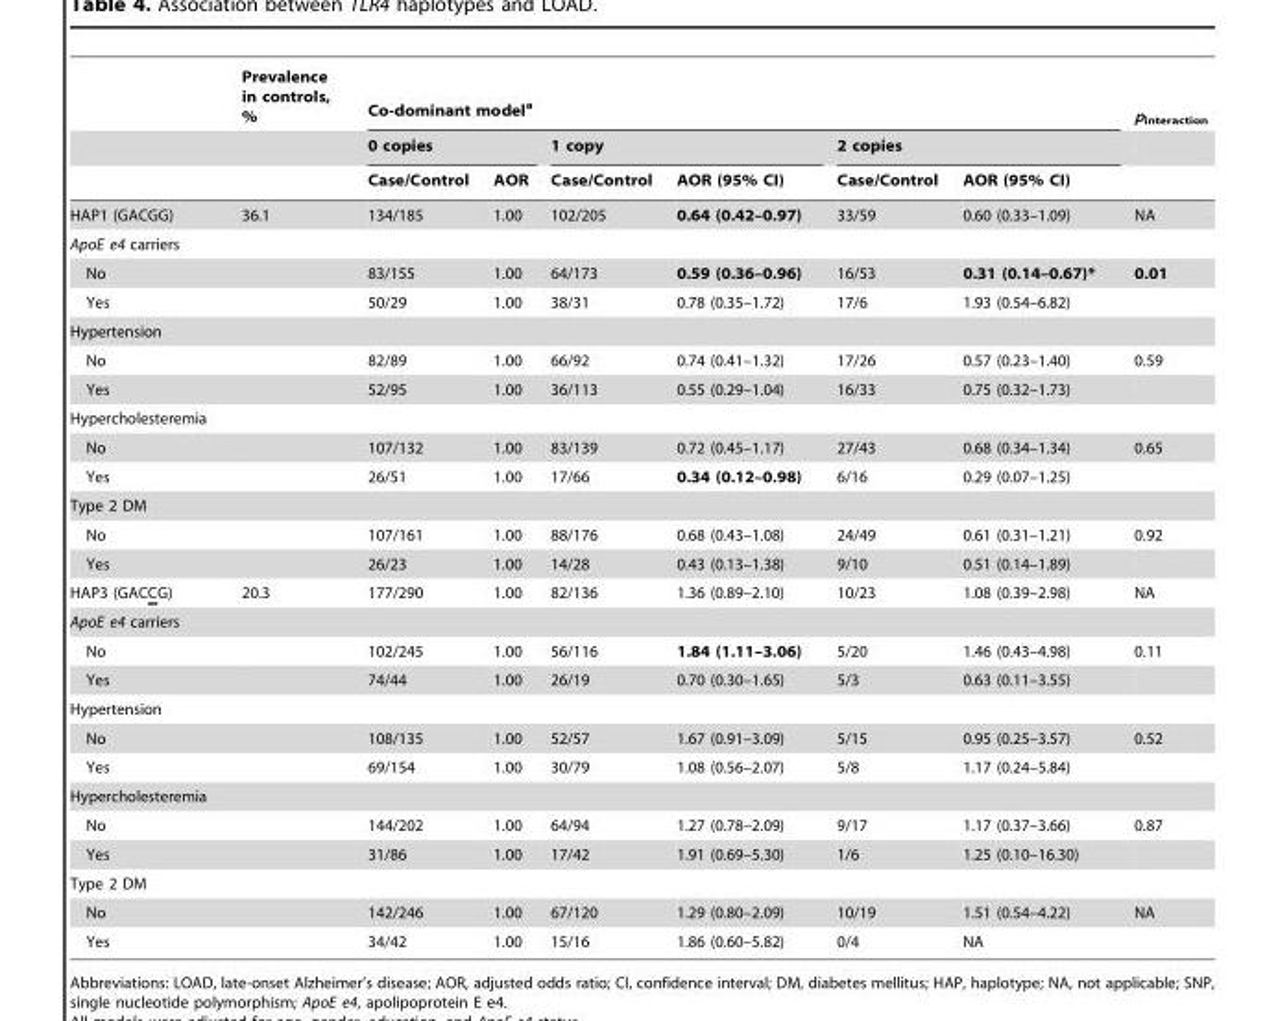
<table><thead><tr><td rowspan="3"></td><td rowspan="3">Prevalence in controls, %</td><td colspan="6">Co-dominant model<sup>a</sup></td><td rowspan="3">p<sub>interaction</sub></td></tr><tr><td colspan="2">0 copies</td><td colspan="2">1 copy</td><td colspan="2">2 copies</td></tr><tr><td>Case/Control</td><td>AOR</td><td>Case/Control</td><td>AOR (95% CI)</td><td>Case/Control</td><td>AOR (95% CI)</td></tr></thead><tbody><tr><td>HAP1 (GACGG)</td><td>36.1</td><td>134/185</td><td>1.00</td><td>102/205</td><td>0.64 (0.42–0.97)</td><td>33/59</td><td>0.60 (0.33–1.09)</td><td>NA</td></tr><tr><td colspan="9">ApoE e4 carriers</td></tr><tr><td>No</td><td></td><td>83/155</td><td>1.00</td><td>64/173</td><td>0.59 (0.36–0.96)</td><td>16/53</td><td>0.31 (0.14–0.67)*</td><td>0.01</td></tr><tr><td>Yes</td><td></td><td>50/29</td><td>1.00</td><td>38/31</td><td>0.78 (0.35–1.72)</td><td>17/6</td><td>1.93 (0.54–6.82)</td><td></td></tr><tr><td colspan="9">Hypertension</td></tr><tr><td>No</td><td></td><td>82/89</td><td>1.00</td><td>66/92</td><td>0.74 (0.41–1.32)</td><td>17/26</td><td>0.57 (0.23–1.40)</td><td>0.59</td></tr><tr><td>Yes</td><td></td><td>52/95</td><td>1.00</td><td>36/113</td><td>0.55 (0.29–1.04)</td><td>16/33</td><td>0.75 (0.32–1.73)</td><td></td></tr><tr><td colspan="9">Hypercholesteremia</td></tr><tr><td>No</td><td></td><td>107/132</td><td>1.00</td><td>83/139</td><td>0.72 (0.45–1.17)</td><td>27/43</td><td>0.68 (0.34–1.34)</td><td>0.65</td></tr><tr><td>Yes</td><td></td><td>26/51</td><td>1.00</td><td>17/66</td><td>0.34 (0.12–0.98)</td><td>6/16</td><td>0.29 (0.07–1.25)</td><td></td></tr><tr><td colspan="9">Type 2 DM</td></tr><tr><td>No</td><td></td><td>107/161</td><td>1.00</td><td>88/176</td><td>0.68 (0.43–1.08)</td><td>24/49</td><td>0.61 (0.31–1.21)</td><td>0.92</td></tr><tr><td>Yes</td><td></td><td>26/23</td><td>1.00</td><td>14/28</td><td>0.43 (0.13–1.38)</td><td>9/10</td><td>0.51 (0.14–1.89)</td><td></td></tr><tr><td>HAP3 (GACCG)</td><td>20.3</td><td>177/290</td><td>1.00</td><td>82/136</td><td>1.36 (0.89–2.10)</td><td>10/23</td><td>1.08 (0.39–2.98)</td><td>NA</td></tr><tr><td colspan="9">ApoE e4 carriers</td></tr><tr><td>No</td><td></td><td>102/245</td><td>1.00</td><td>56/116</td><td>1.84 (1.11–3.06)</td><td>5/20</td><td>1.46 (0.43–4.98)</td><td>0.11</td></tr><tr><td>Yes</td><td></td><td>74/44</td><td>1.00</td><td>26/19</td><td>0.70 (0.30–1.65)</td><td>5/3</td><td>0.63 (0.11–3.55)</td><td></td></tr><tr><td colspan="9">Hypertension</td></tr><tr><td>No</td><td></td><td>108/135</td><td>1.00</td><td>52/57</td><td>1.67 (0.91–3.09)</td><td>5/15</td><td>0.95 (0.25–3.57)</td><td>0.52</td></tr><tr><td>Yes</td><td></td><td>69/154</td><td>1.00</td><td>30/79</td><td>1.08 (0.56–2.07)</td><td>5/8</td><td>1.17 (0.24–5.84)</td><td></td></tr><tr><td colspan="9">Hypercholesteremia</td></tr><tr><td>No</td><td></td><td>144/202</td><td>1.00</td><td>64/94</td><td>1.27 (0.78–2.09)</td><td>9/17</td><td>1.17 (0.37–3.66)</td><td>0.87</td></tr><tr><td>Yes</td><td></td><td>31/86</td><td>1.00</td><td>17/42</td><td>1.91 (0.69–5.30)</td><td>1/6</td><td>1.25 (0.10–16.30)</td><td></td></tr><tr><td colspan="9">Type 2 DM</td></tr><tr><td>No</td><td></td><td>142/246</td><td>1.00</td><td>67/120</td><td>1.29 (0.80–2.09)</td><td>10/19</td><td>1.51 (0.54–4.22)</td><td>NA</td></tr><tr><td>Yes</td><td></td><td>34/42</td><td>1.00</td><td>15/16</td><td>1.86 (0.60–5.82)</td><td>0/4</td><td>NA</td><td></td></tr></tbody></table>